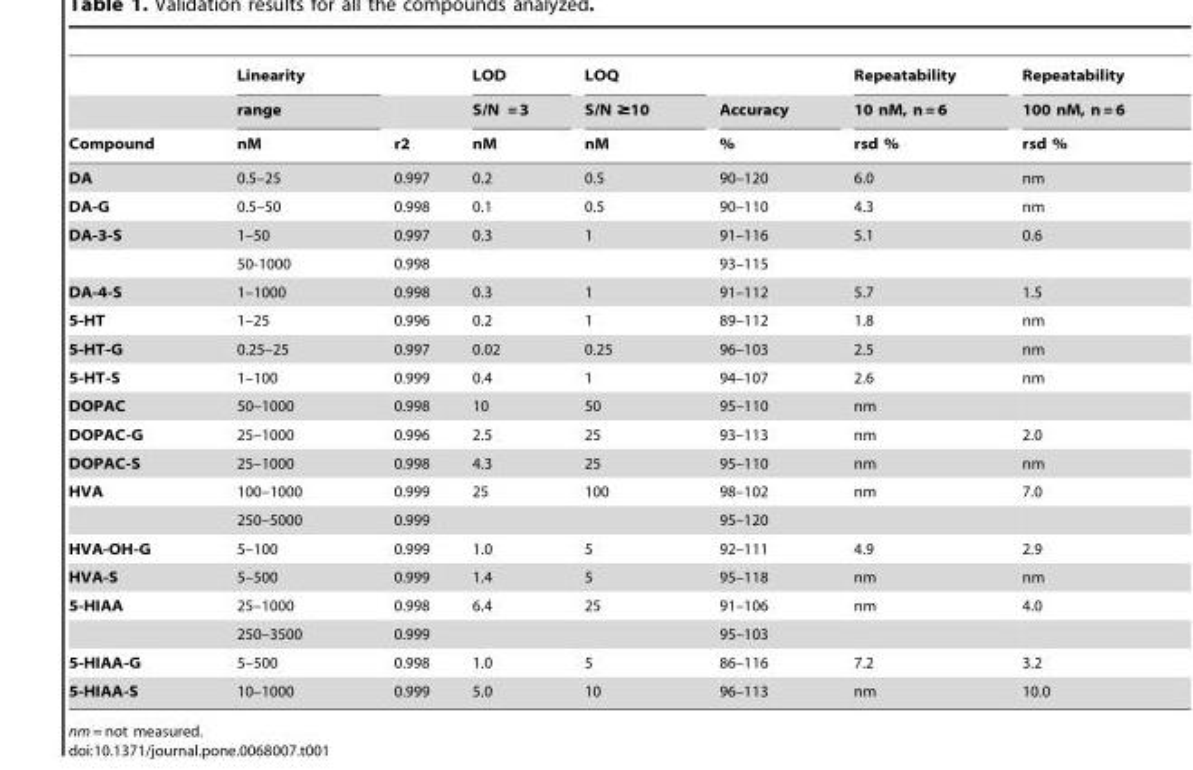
<table><thead><tr><td rowspan="3">Compound</td><td rowspan="3">Linearity range nM</td><td rowspan="3">r2</td><td rowspan="3">LOD S/N = 3 nM</td><td rowspan="3">LOQ S/N ≥10 nM</td><td rowspan="3">Accuracy %</td><td rowspan="3">Repeatability 10 nM, n = 6 rsd %</td><td rowspan="3">Repeatability 100 nM, n = 6 rsd %</td></tr><tr></tr><tr></tr></thead><tbody><tr><td>DA</td><td>0.5–25</td><td>0.997</td><td>0.2</td><td>0.5</td><td>90–120</td><td>6.0</td><td>nm</td></tr><tr><td>DA-G</td><td>0.5–50</td><td>0.998</td><td>0.1</td><td>0.5</td><td>90–110</td><td>4.3</td><td>nm</td></tr><tr><td rowspan="2">DA-3-S</td><td>1–50</td><td>0.997</td><td>0.3</td><td>1</td><td>91–116</td><td>5.1</td><td>0.6</td></tr><tr><td>50-1000</td><td>0.998</td><td></td><td></td><td>93–115</td><td></td><td></td></tr><tr><td>DA-4-S</td><td>1–1000</td><td>0.998</td><td>0.3</td><td>1</td><td>91–112</td><td>5.7</td><td>1.5</td></tr><tr><td>5-HT</td><td>1–25</td><td>0.996</td><td>0.2</td><td>1</td><td>89–112</td><td>1.8</td><td>nm</td></tr><tr><td>5-HT-G</td><td>0.25–25</td><td>0.997</td><td>0.02</td><td>0.25</td><td>96–103</td><td>2.5</td><td>nm</td></tr><tr><td>5-HT-S</td><td>1–100</td><td>0.999</td><td>0.4</td><td>1</td><td>94–107</td><td>2.6</td><td>nm</td></tr><tr><td>DOPAC</td><td>50–1000</td><td>0.998</td><td>10</td><td>50</td><td>95–110</td><td>nm</td><td></td></tr><tr><td>DOPAC-G</td><td>25–1000</td><td>0.996</td><td>2.5</td><td>25</td><td>93–113</td><td>nm</td><td>2.0</td></tr><tr><td>DOPAC-S</td><td>25–1000</td><td>0.998</td><td>4.3</td><td>25</td><td>95–110</td><td>nm</td><td>nm</td></tr><tr><td rowspan="2">HVA</td><td>100–1000</td><td>0.999</td><td>25</td><td>100</td><td>98–102</td><td>nm</td><td>7.0</td></tr><tr><td>250–5000</td><td>0.999</td><td></td><td></td><td>95–120</td><td></td><td></td></tr><tr><td>HVA-OH-G</td><td>5–100</td><td>0.999</td><td>1.0</td><td>5</td><td>92–111</td><td>4.9</td><td>2.9</td></tr><tr><td>HVA-S</td><td>5–500</td><td>0.999</td><td>1.4</td><td>5</td><td>95–118</td><td>nm</td><td>nm</td></tr><tr><td rowspan="2">5-HIAA</td><td>25–1000</td><td>0.998</td><td>6.4</td><td>25</td><td>91–106</td><td>nm</td><td>4.0</td></tr><tr><td>250–3500</td><td>0.999</td><td></td><td></td><td>95–103</td><td></td><td></td></tr><tr><td>5-HIAA-G</td><td>5–500</td><td>0.998</td><td>1.0</td><td>5</td><td>86–116</td><td>7.2</td><td>3.2</td></tr><tr><td>5-HIAA-S</td><td>10–1000</td><td>0.999</td><td>5.0</td><td>10</td><td>96–113</td><td>nm</td><td>10.0</td></tr></tbody></table>